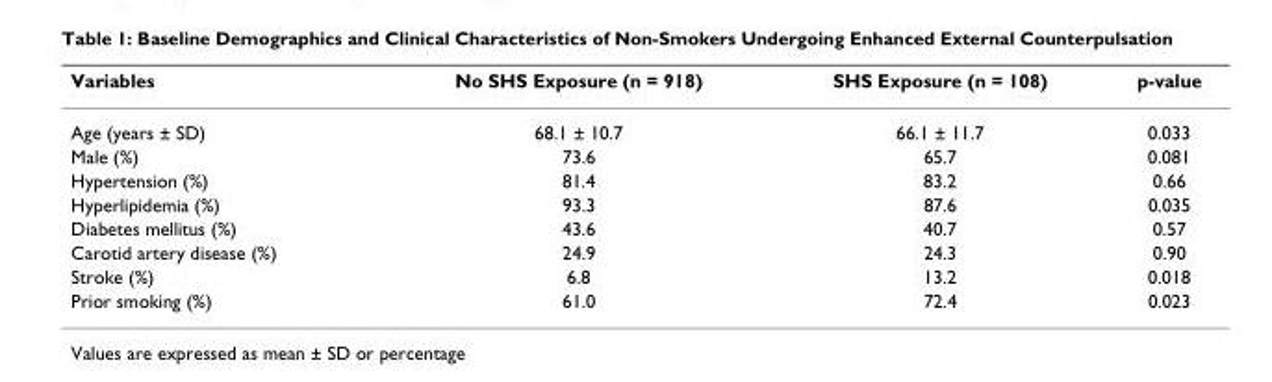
<table><thead><tr><td>Variables</td><td>No SHS Exposure (n = 918)</td><td>SHS Exposure (n = 108)</td><td>p-value</td></tr></thead><tbody><tr><td>Age (years ± SD)</td><td>68.1 ± 10.7</td><td>66.1 ± 11.7</td><td>0.033</td></tr><tr><td>Male (%)</td><td>73.6</td><td>65.7</td><td>0.081</td></tr><tr><td>Hypertension (%)</td><td>81.4</td><td>83.2</td><td>0.66</td></tr><tr><td>Hyperlipidemia (%)</td><td>93.3</td><td>87.6</td><td>0.035</td></tr><tr><td>Diabetes mellitus (%)</td><td>43.6</td><td>40.7</td><td>0.57</td></tr><tr><td>Carotid artery disease (%)</td><td>24.9</td><td>24.3</td><td>0.90</td></tr><tr><td>Stroke (%)</td><td>6.8</td><td>13.2</td><td>0.018</td></tr><tr><td>Prior smoking (%)</td><td>61.0</td><td>72.4</td><td>0.023</td></tr></tbody></table>